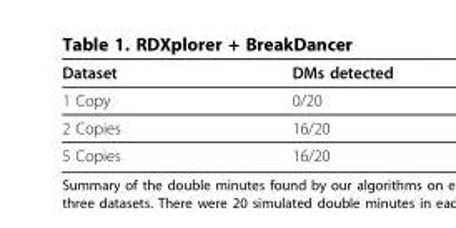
<table><thead><tr><td>Dataset</td><td>DMs detected</td></tr></thead><tbody><tr><td>1 Copy</td><td>0/20</td></tr><tr><td>2 Copies</td><td>16/20</td></tr><tr><td>5 Copies</td><td>16/20</td></tr></tbody></table>